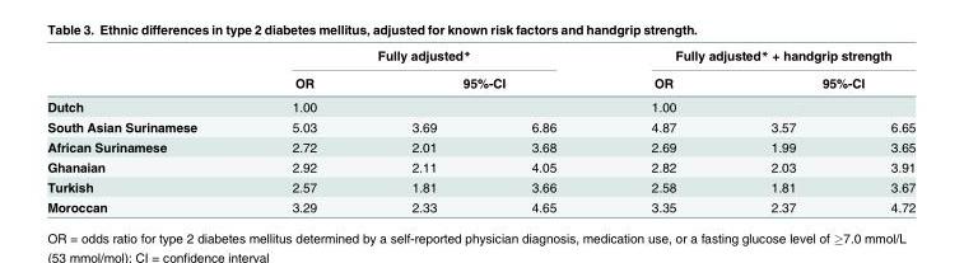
<table><thead><tr><td rowspan="3">Dutch</td><td colspan="3">Fully adjusted*</td><td colspan="3">Fully adjusted* + handgrip strength</td></tr><tr><td rowspan="2">OR 1.00</td><td colspan="2">95%-CI</td><td rowspan="2">OR 1.00</td><td colspan="2">95%-CI</td></tr><tr><td></td><td></td><td></td><td></td></tr></thead><tbody><tr><td>South Asian Surinamese</td><td>5.03</td><td>3.69</td><td>6.86</td><td>4.87</td><td>3.57</td><td>6.65</td></tr><tr><td>African Surinamese</td><td>2.72</td><td>2.01</td><td>3.68</td><td>2.69</td><td>1.99</td><td>3.65</td></tr><tr><td>Ghanaian</td><td>2.92</td><td>2.11</td><td>4.05</td><td>2.82</td><td>2.03</td><td>3.91</td></tr><tr><td>Turkish</td><td>2.57</td><td>1.81</td><td>3.66</td><td>2.58</td><td>1.81</td><td>3.67</td></tr><tr><td>Moroccan</td><td>3.29</td><td>2.33</td><td>4.65</td><td>3.35</td><td>2.37</td><td>4.72</td></tr></tbody></table>